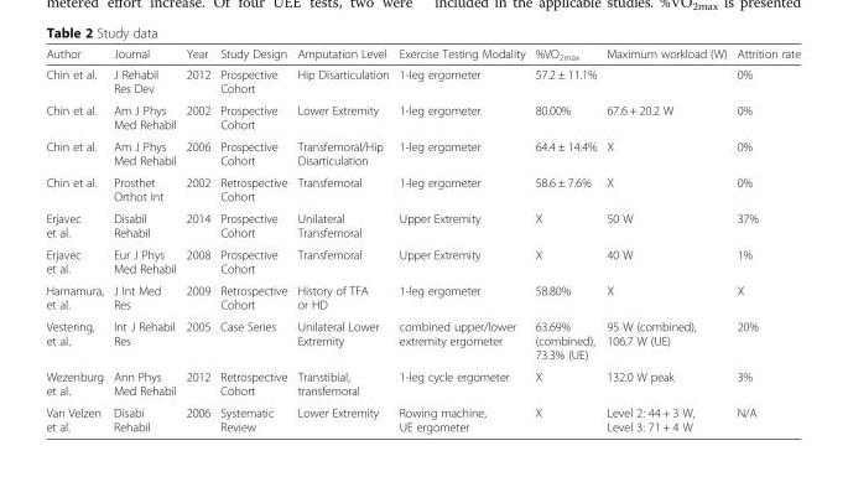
<table><thead><tr><td>Author</td><td>Journal</td><td>Year</td><td>Study Design</td><td>Amputation Level</td><td>Exercise Testing Modality</td><td>%VO<sub>2max</sub></td><td>Maximum workload (W)</td><td>Attrition rate</td></tr></thead><tbody><tr><td>Chin et al.</td><td>J Rehabil Res Dev</td><td>2012</td><td>Prospective Cohort</td><td>Hip Disarticulation</td><td>1-leg ergometer</td><td>57.2 ± 11.1%</td><td></td><td>0%</td></tr><tr><td>Chin et al.</td><td>Am J Phys Med Rehabil</td><td>2002</td><td>Prospective Cohort</td><td>Lower Extremity</td><td>1-leg ergometer</td><td>80.00%</td><td>67.6 + 20.2 W</td><td>0%</td></tr><tr><td>Chin et al.</td><td>Am J Phys Med Rehabil</td><td>2006</td><td>Prospective Cohort</td><td>Transfemoral/Hip Disarticulation</td><td>1-leg ergometer</td><td>64.4 ± 14.4%</td><td>X</td><td>0%</td></tr><tr><td>Chin et al.</td><td>Prosthet Orthot Int</td><td>2002</td><td>Retrospective Cohort</td><td>Transfemoral</td><td>1-leg ergometer</td><td>58.6 ± 7.6%</td><td>X</td><td>0%</td></tr><tr><td>Erjavec et al.</td><td>Disabil Rehabil</td><td>2014</td><td>Prospective Cohort</td><td>Unilateral Transfemoral</td><td>Upper Extremity</td><td>X</td><td>50 W</td><td>37%</td></tr><tr><td>Erjavec et al.</td><td>Eur J Phys Med Rehabil</td><td>2008</td><td>Prospective Cohort</td><td>Transfemoral</td><td>Upper Extremity</td><td>X</td><td>40 W</td><td>1%</td></tr><tr><td>Hamamura, et al.</td><td>J Int Med Res</td><td>2009</td><td>Retrospective Cohort</td><td>History of TFA or HD</td><td>1-leg ergometer</td><td>58.80%</td><td>X</td><td>X</td></tr><tr><td>Vestering, et al.</td><td>Int J Rehabil Res</td><td>2005</td><td>Case Series</td><td>Unilateral Lower Extremity</td><td>combined upper/lower extremity ergometer</td><td>63.69% (combined), 73.3% (UE)</td><td>95 W (combined), 106.7 W (UE)</td><td>20%</td></tr><tr><td>Wezenburg et al.</td><td>Ann Phys Med Rehabil</td><td>2012</td><td>Retrospective Cohort</td><td>Transtibial, transfemoral</td><td>1-leg cycle ergometer</td><td>X</td><td>132.0 W peak</td><td>3%</td></tr><tr><td>Van Velzen et al.</td><td>Disabi Rehabil</td><td>2006</td><td>Systematic Review</td><td>Lower Extremity</td><td>Rowing machine, UE ergometer</td><td>X</td><td>Level 2: 44 + 3 W, Level 3: 71 + 4 W</td><td>N/A</td></tr></tbody></table>